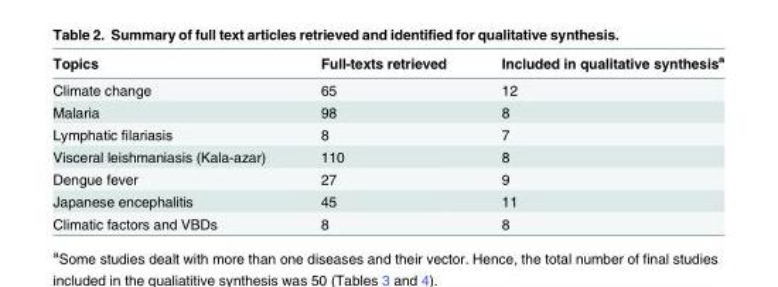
<table><thead><tr><td>Topics</td><td>Full-texts retrieved</td><td>Included in qualitative synthesis<sup>a</sup></td></tr></thead><tbody><tr><td>Climate change</td><td>65</td><td>12</td></tr><tr><td>Malaria</td><td>98</td><td>8</td></tr><tr><td>Lymphatic filariasis</td><td>8</td><td>7</td></tr><tr><td>Visceral leishmaniasis (Kala-azar)</td><td>110</td><td>8</td></tr><tr><td>Dengue fever</td><td>27</td><td>9</td></tr><tr><td>Japanese encephalitis</td><td>45</td><td>11</td></tr><tr><td>Climatic factors and VBDs</td><td>8</td><td>8</td></tr></tbody></table>